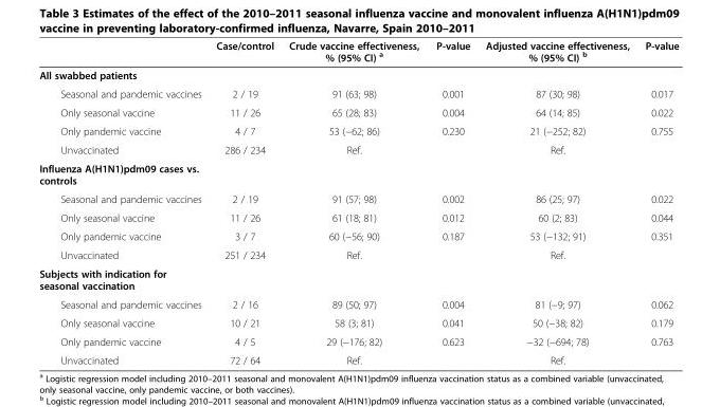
<table><thead><tr><td></td><td>Case/control</td><td>Crude vaccine effectiveness, % (95% CI) <sup>a</sup></td><td>P-value</td><td>Adjusted vaccine effectiveness, % (95% CI) <sup>b</sup></td><td>P-value</td></tr></thead><tbody><tr><td colspan="6">All swabbed patients</td></tr><tr><td>Seasonal and pandemic vaccines</td><td>2 / 19</td><td>91 (63; 98)</td><td>0.001</td><td>87 (30; 98)</td><td>0.017</td></tr><tr><td>Only seasonal vaccine</td><td>11 / 26</td><td>65 (28; 83)</td><td>0.004</td><td>64 (14; 85)</td><td>0.022</td></tr><tr><td>Only pandemic vaccine</td><td>4 / 7</td><td>53 (−62; 86)</td><td>0.230</td><td>21 (−252; 82)</td><td>0.755</td></tr><tr><td>Unvaccinated</td><td>286 / 234</td><td>Ref.</td><td></td><td>Ref.</td><td></td></tr><tr><td colspan="6">Influenza A(H1N1)pdm09 cases vs. controls</td></tr><tr><td>Seasonal and pandemic vaccines</td><td>2 / 19</td><td>91 (57; 98)</td><td>0.002</td><td>86 (25; 97)</td><td>0.022</td></tr><tr><td>Only seasonal vaccine</td><td>11 / 26</td><td>61 (18; 81)</td><td>0.012</td><td>60 (2; 83)</td><td>0.044</td></tr><tr><td>Only pandemic vaccine</td><td>3 / 7</td><td>60 (−56; 90)</td><td>0.187</td><td>53 (−132; 91)</td><td>0.351</td></tr><tr><td>Unvaccinated</td><td>251 / 234</td><td>Ref.</td><td></td><td>Ref.</td><td></td></tr><tr><td colspan="6">Subjects with indication for seasonal vaccination</td></tr><tr><td>Seasonal and pandemic vaccines</td><td>2 / 16</td><td>89 (50; 97)</td><td>0.004</td><td>81 (−9; 97)</td><td>0.062</td></tr><tr><td>Only seasonal vaccine</td><td>10 / 21</td><td>58 (3; 81)</td><td>0.041</td><td>50 (−38; 82)</td><td>0.179</td></tr><tr><td>Only pandemic vaccine</td><td>4 / 5</td><td>29 (−176; 82)</td><td>0.623</td><td>−32 (−694; 78)</td><td>0.763</td></tr><tr><td>Unvaccinated</td><td>72 / 64</td><td>Ref.</td><td></td><td>Ref.</td><td></td></tr></tbody></table>